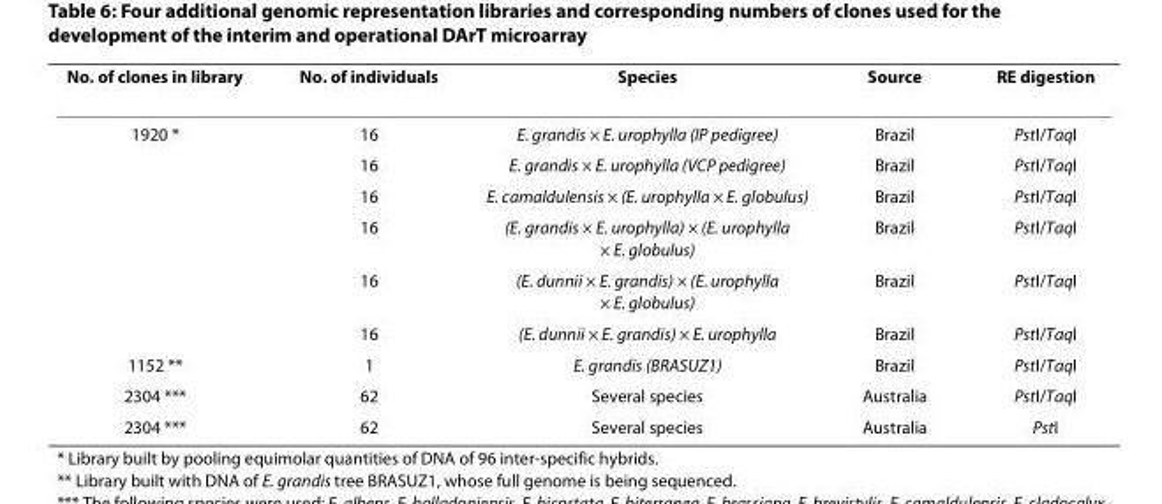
<table><thead><tr><td>No. of clones in library</td><td>No. of individuals</td><td>Species</td><td>Source</td><td>RE digestion</td></tr></thead><tbody><tr><td rowspan="6">1920 *</td><td>16</td><td>E. grandis × E. urophylla (IP pedigree)</td><td>Brazil</td><td>PstI/TaqI</td></tr><tr><td>16</td><td>E. grandis × E. urophylla (VCP pedigree)</td><td>Brazil</td><td>PstI/TaqI</td></tr><tr><td>16</td><td>E. camaldulensis × (E. urophylla × E. globulus)</td><td>Brazil</td><td>PstI/TaqI</td></tr><tr><td>16</td><td>(E. grandis × E. urophylla) × (E. urophylla × E. globulus)</td><td>Brazil</td><td>PstI/TaqI</td></tr><tr><td>16</td><td>(E. dunnii × E. grandis) × (E. urophylla × E. globulus)</td><td>Brazil</td><td>PstI/TaqI</td></tr><tr><td>16</td><td>(E. dunnii × E. grandis) × E. urophylla</td><td>Brazil</td><td>PstI/TaqI</td></tr><tr><td>1152 **</td><td>1</td><td>E. grandis (BRASUZ1)</td><td>Brazil</td><td>PstI/TaqI</td></tr><tr><td>2304 ***</td><td>62</td><td>Several species</td><td>Australia</td><td>PstI/TaqI</td></tr><tr><td>2304 ***</td><td>62</td><td>Several species</td><td>Australia</td><td>PstI</td></tr></tbody></table>